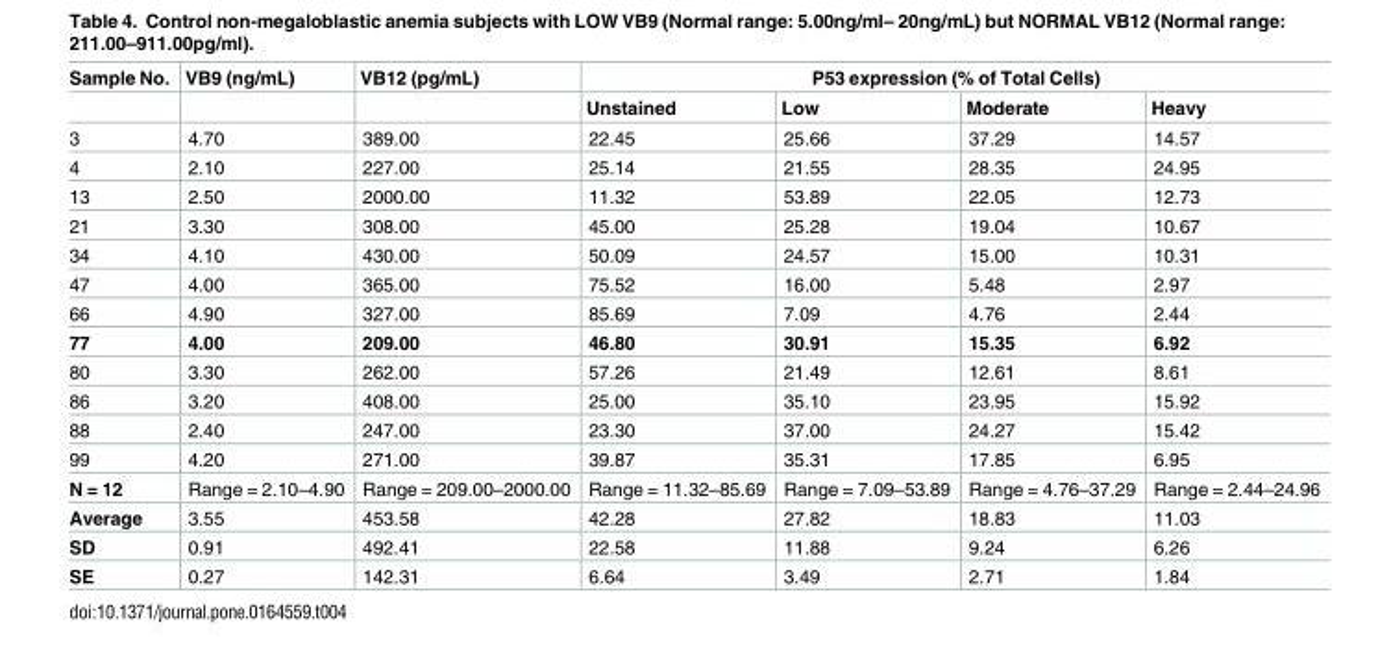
<table><thead><tr><td rowspan="2">Sample No.</td><td rowspan="2">VB9 (ng/mL)</td><td rowspan="2">VB12 (pg/mL)</td><td colspan="4">P53 expression (% of Total Cells)</td></tr><tr><td>Unstained</td><td>Low</td><td>Moderate</td><td>Heavy</td></tr></thead><tbody><tr><td>3</td><td>4.70</td><td>389.00</td><td>22.45</td><td>25.66</td><td>37.29</td><td>14.57</td></tr><tr><td>4</td><td>2.10</td><td>227.00</td><td>25.14</td><td>21.55</td><td>28.35</td><td>24.95</td></tr><tr><td>13</td><td>2.50</td><td>2000.00</td><td>11.32</td><td>53.89</td><td>22.05</td><td>12.73</td></tr><tr><td>21</td><td>3.30</td><td>308.00</td><td>45.00</td><td>25.28</td><td>19.04</td><td>10.67</td></tr><tr><td>34</td><td>4.10</td><td>430.00</td><td>50.09</td><td>24.57</td><td>15.00</td><td>10.31</td></tr><tr><td>47</td><td>4.00</td><td>365.00</td><td>75.52</td><td>16.00</td><td>5.48</td><td>2.97</td></tr><tr><td>66</td><td>4.90</td><td>327.00</td><td>85.69</td><td>7.09</td><td>4.76</td><td>2.44</td></tr><tr><td>77</td><td>4.00</td><td>209.00</td><td>46.80</td><td>30.91</td><td>15.35</td><td>6.92</td></tr><tr><td>80</td><td>3.30</td><td>262.00</td><td>57.26</td><td>21.49</td><td>12.61</td><td>8.61</td></tr><tr><td>86</td><td>3.20</td><td>408.00</td><td>25.00</td><td>35.10</td><td>23.95</td><td>15.92</td></tr><tr><td>88</td><td>2.40</td><td>247.00</td><td>23.30</td><td>37.00</td><td>24.27</td><td>15.42</td></tr><tr><td>99</td><td>4.20</td><td>271.00</td><td>39.87</td><td>35.31</td><td>17.85</td><td>6.95</td></tr><tr><td>N = 12</td><td>Range = 2.10–4.90</td><td>Range = 209.00–2000.00</td><td>Range = 11.32–85.69</td><td>Range = 7.09–53.89</td><td>Range = 4.76–37.29</td><td>Range = 2.44–24.96</td></tr><tr><td>Average</td><td>3.55</td><td>453.58</td><td>42.28</td><td>27.82</td><td>18.83</td><td>11.03</td></tr><tr><td>SD</td><td>0.91</td><td>492.41</td><td>22.58</td><td>11.88</td><td>9.24</td><td>6.26</td></tr><tr><td>SE</td><td>0.27</td><td>142.31</td><td>6.64</td><td>3.49</td><td>2.71</td><td>1.84</td></tr></tbody></table>